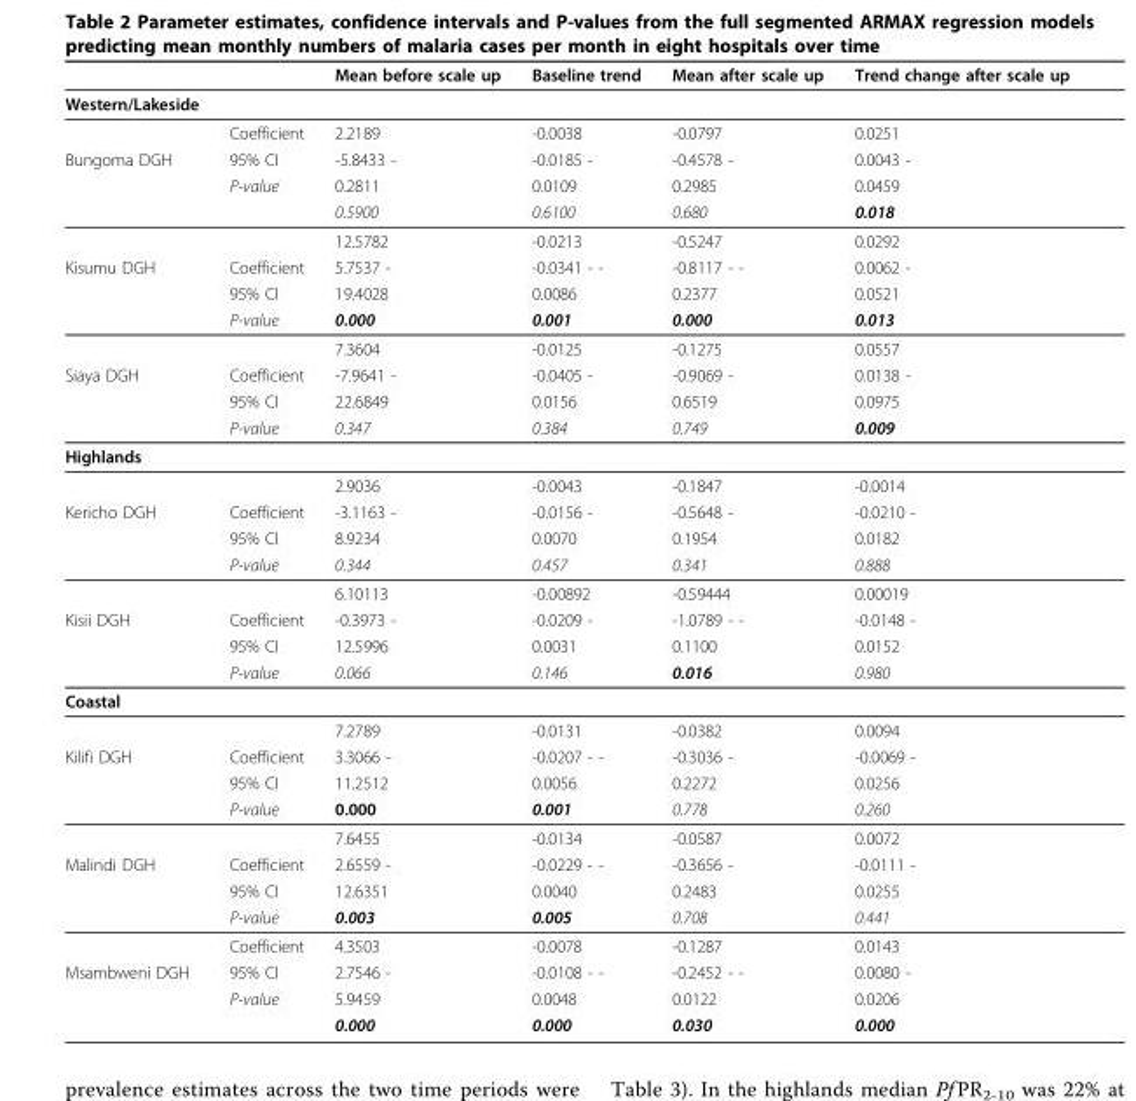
<table><thead><tr><td></td><td></td><td>Mean before scale up</td><td>Baseline trend</td><td>Mean after scale up</td><td>Trend change after scale up</td></tr></thead><tbody><tr><td colspan="6">Western/Lakeside</td></tr><tr><td></td><td>Coefficient</td><td>2.2189</td><td>-0.0038</td><td>-0.0797</td><td>0.0251</td></tr><tr><td rowspan="4">Bungoma DGH</td><td>95% CI</td><td>-5.8433 -</td><td>-0.0185 -</td><td>-0.4578 -</td><td>0.0043 -</td></tr><tr><td>P-value</td><td>0.2811</td><td>0.0109</td><td>0.2985</td><td>0.0459</td></tr><tr><td></td><td>0.5900</td><td>0.6100</td><td>0.680</td><td>0.018</td></tr><tr><td></td><td>12.5782</td><td>-0.0213</td><td>-0.5247</td><td>0.0292</td></tr><tr><td rowspan="4">Kisumu DGH</td><td>Coefficient</td><td>5.7537 -</td><td>-0.0341 - -</td><td>-0.8117 - -</td><td>0.0062 -</td></tr><tr><td>95% CI</td><td>19.4028</td><td>0.0086</td><td>0.2377</td><td>0.0521</td></tr><tr><td>P-value</td><td>0.000</td><td>0.001</td><td>0.000</td><td>0.013</td></tr><tr><td></td><td>7.3604</td><td>-0.0125</td><td>-0.1275</td><td>0.0557</td></tr><tr><td rowspan="3">Siaya DGH</td><td>Coefficient</td><td>-7.9641 -</td><td>-0.0405 -</td><td>-0.9069 -</td><td>0.0138 -</td></tr><tr><td>95% CI</td><td>22.6849</td><td>0.0156</td><td>0.6519</td><td>0.0975</td></tr><tr><td>P-value</td><td>0.347</td><td>0.384</td><td>0.749</td><td>0.009</td></tr><tr><td colspan="6">Highlands</td></tr><tr><td></td><td></td><td>2.9036</td><td>-0.0043</td><td>-0.1847</td><td>-0.0014</td></tr><tr><td rowspan="4">Kericho DGH</td><td>Coefficient</td><td>-3.1163 -</td><td>-0.0156 -</td><td>-0.5648 -</td><td>-0.0210 -</td></tr><tr><td>95% CI</td><td>8.9234</td><td>0.0070</td><td>0.1954</td><td>0.0182</td></tr><tr><td>P-value</td><td>0.344</td><td>0.457</td><td>0.341</td><td>0.888</td></tr><tr><td></td><td>6.10113</td><td>-0.00892</td><td>-0.59444</td><td>0.00019</td></tr><tr><td rowspan="3">Kisii DGH</td><td>Coefficient</td><td>-0.3973 -</td><td>-0.0209 -</td><td>-1.0789 - -</td><td>-0.0148 -</td></tr><tr><td>95% CI</td><td>12.5996</td><td>0.0031</td><td>0.1100</td><td>0.0152</td></tr><tr><td>P-value</td><td>0.066</td><td>0.146</td><td>0.016</td><td>0.980</td></tr><tr><td colspan="6">Coastal</td></tr><tr><td></td><td></td><td>7.2789</td><td>-0.0131</td><td>-0.0382</td><td>0.0094</td></tr><tr><td rowspan="4">Kilifi DGH</td><td>Coefficient</td><td>3.3066 -</td><td>-0.0207 - -</td><td>-0.3036 -</td><td>-0.0069 -</td></tr><tr><td>95% CI</td><td>11.2512</td><td>0.0056</td><td>0.2272</td><td>0.0256</td></tr><tr><td>P-value</td><td>0.000</td><td>0.001</td><td>0.778</td><td>0.260</td></tr><tr><td></td><td>7.6455</td><td>-0.0134</td><td>-0.0587</td><td>0.0072</td></tr><tr><td rowspan="4">Malindi DGH</td><td>Coefficient</td><td>2.6559 -</td><td>-0.0229 - -</td><td>-0.3656 -</td><td>-0.0111 -</td></tr><tr><td>95% CI</td><td>12.6351</td><td>0.0040</td><td>0.2483</td><td>0.0255</td></tr><tr><td>P-value</td><td>0.003</td><td>0.005</td><td>0.708</td><td>0.441</td></tr><tr><td>Coefficient</td><td>4.3503</td><td>-0.0078</td><td>-0.1287</td><td>0.0143</td></tr><tr><td rowspan="3">Msambweni DGH</td><td>95% CI</td><td>2.7546 -</td><td>-0.0108 - -</td><td>-0.2452 - -</td><td>0.0080 -</td></tr><tr><td>P-value</td><td>5.9459</td><td>0.0048</td><td>0.0122</td><td>0.0206</td></tr><tr><td></td><td>0.000</td><td>0.000</td><td>0.030</td><td>0.000</td></tr></tbody></table>